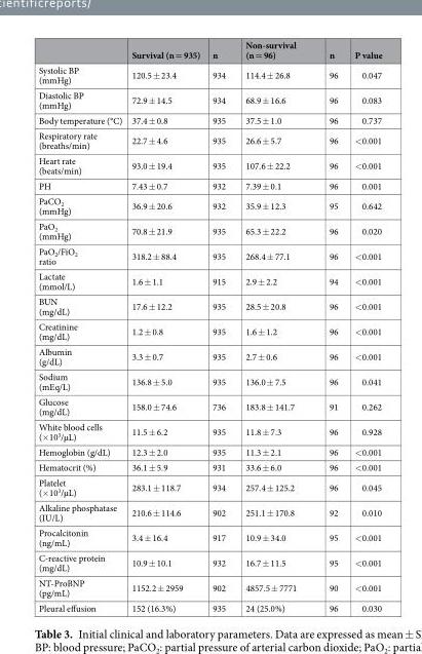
<table><thead><tr><td></td><td>Survival (n = 935)</td><td>n</td><td>Non-survival (n = 96)</td><td>n</td><td>P value</td></tr></thead><tbody><tr><td>Systolic BP (mmHg)</td><td>120.5 ± 23.4</td><td>934</td><td>114.4 ± 26.8</td><td>96</td><td>0.047</td></tr><tr><td>Diastolic BP (mmHg)</td><td>72.9 ± 14.5</td><td>934</td><td>68.9 ± 16.6</td><td>96</td><td>0.083</td></tr><tr><td>Body temperature (°C)</td><td>37.4 ± 0.8</td><td>935</td><td>37.5 ± 1.0</td><td>96</td><td>0.737</td></tr><tr><td>Respiratory rate (breaths/min)</td><td>22.7 ± 4.6</td><td>935</td><td>26.6 ± 5.7</td><td>96</td><td>&lt;0.001</td></tr><tr><td>Heart rate (beats/min)</td><td>93.0 ± 19.4</td><td>935</td><td>107.6 ± 22.2</td><td>96</td><td>&lt;0.001</td></tr><tr><td>PH</td><td>7.43 ± 0.7</td><td>932</td><td>7.39 ± 0.1</td><td>96</td><td>0.001</td></tr><tr><td>PaCO<sub>2</sub> (mmHg)</td><td>36.9 ± 20.6</td><td>932</td><td>35.9 ± 12.3</td><td>95</td><td>0.642</td></tr><tr><td>PaO<sub>2</sub> (mmHg)</td><td>70.8 ± 21.9</td><td>935</td><td>65.3 ± 22.2</td><td>96</td><td>0.020</td></tr><tr><td>PaO<sub>2</sub>/FiO<sub>2</sub> ratio</td><td>318.2 ± 88.4</td><td>935</td><td>268.4 ± 77.1</td><td>96</td><td>&lt;0.001</td></tr><tr><td>Lactate (mmol/L)</td><td>1.6 ± 1.1</td><td>915</td><td>2.9 ± 2.2</td><td>94</td><td>&lt;0.001</td></tr><tr><td>BUN (mg/dL)</td><td>17.6 ± 12.2</td><td>935</td><td>28.5 ± 20.8</td><td>96</td><td>&lt;0.001</td></tr><tr><td>Creatinine (mg/dL)</td><td>1.2 ± 0.8</td><td>935</td><td>1.6 ± 1.2</td><td>96</td><td>&lt;0.001</td></tr><tr><td>Albumin (g/dL)</td><td>3.3 ± 0.7</td><td>935</td><td>2.7 ± 0.6</td><td>96</td><td>&lt;0.001</td></tr><tr><td>Sodium (mEq/L)</td><td>136.8 ± 5.0</td><td>935</td><td>136.0 ± 7.5</td><td>96</td><td>0.041</td></tr><tr><td>Glucose (mg/dL)</td><td>158.0 ± 74.6</td><td>736</td><td>183.8 ± 141.7</td><td>91</td><td>0.262</td></tr><tr><td>White blood cells (×10<sup>3</sup>/µL)</td><td>11.5 ± 6.2</td><td>935</td><td>11.8 ± 7.3</td><td>96</td><td>0.928</td></tr><tr><td>Hemoglobin (g/dL)</td><td>12.3 ± 2.0</td><td>935</td><td>11.3 ± 2.1</td><td>96</td><td>&lt;0.001</td></tr><tr><td>Hematocrit (%)</td><td>36.1 ± 5.9</td><td>931</td><td>33.6 ± 6.0</td><td>96</td><td>&lt;0.001</td></tr><tr><td>Platelet (×10<sup>3</sup>/µL)</td><td>283.1 ± 118.7</td><td>934</td><td>257.4 ± 125.2</td><td>96</td><td>0.045</td></tr><tr><td>Alkaline phosphatase (IU/L)</td><td>210.6 ± 114.6</td><td>902</td><td>251.1 ± 170.8</td><td>92</td><td>0.010</td></tr><tr><td>Procalcitonin (ng/mL)</td><td>3.4 ± 16.4</td><td>917</td><td>10.9 ± 34.0</td><td>95</td><td>&lt;0.001</td></tr><tr><td>C-reactive protein (mg/dL)</td><td>10.9 ± 10.1</td><td>932</td><td>16.7 ± 11.5</td><td>95</td><td>&lt;0.001</td></tr><tr><td>NT-ProBNP (pg/mL)</td><td>1152.2 ± 2959</td><td>902</td><td>4857.5 ± 7771</td><td>90</td><td>&lt;0.001</td></tr><tr><td>Pleural effusion</td><td>152 (16.3%)</td><td>935</td><td>24 (25.0%)</td><td>96</td><td>0.030</td></tr></tbody></table>